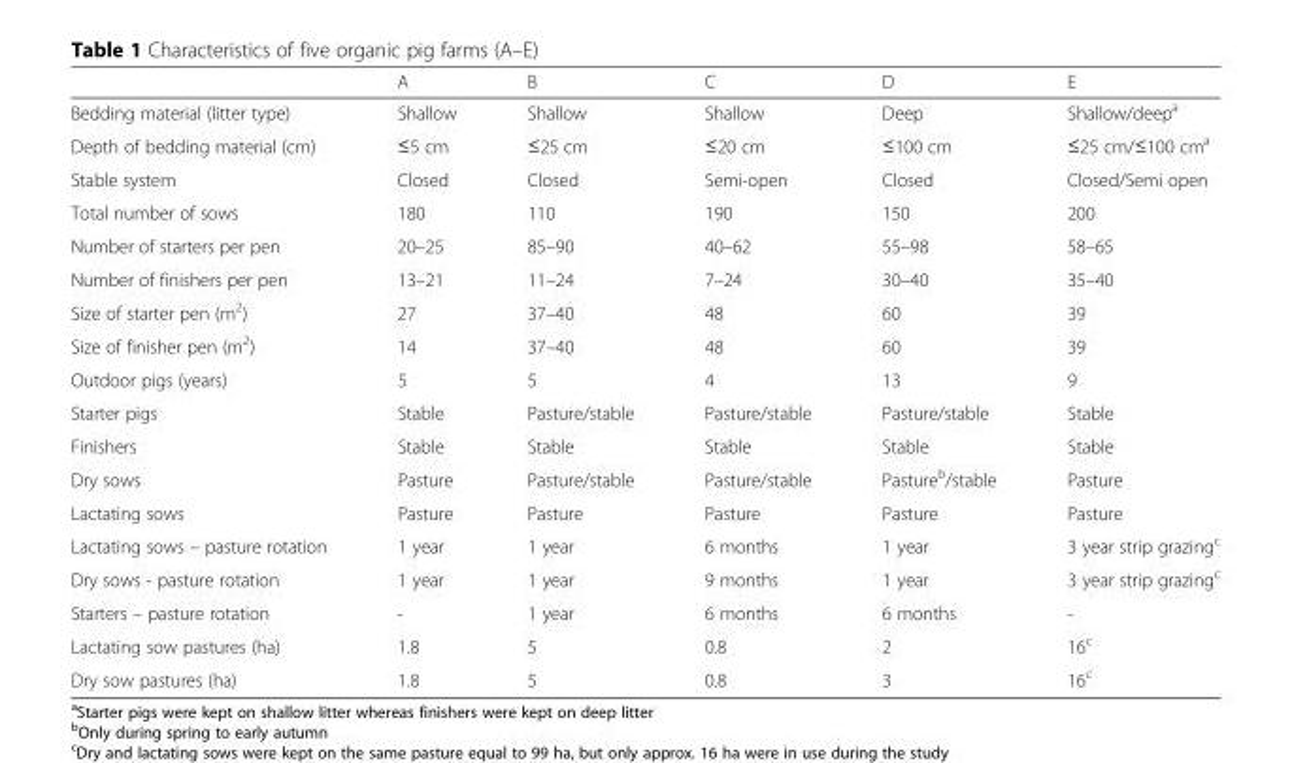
<table><thead><tr><td></td><td>A</td><td>B</td><td>C</td><td>D</td><td>E</td></tr></thead><tbody><tr><td>Bedding material (litter type)</td><td>Shallow</td><td>Shallow</td><td>Shallow</td><td>Deep</td><td>Shallow/deep<sup>a</sup></td></tr><tr><td>Depth of bedding material (cm)</td><td>≤5 cm</td><td>≤25 cm</td><td>≤20 cm</td><td>≤100 cm</td><td>≤25 cm/≤100 cm<sup>a</sup></td></tr><tr><td>Stable system</td><td>Closed</td><td>Closed</td><td>Semi-open</td><td>Closed</td><td>Closed/Semi open</td></tr><tr><td>Total number of sows</td><td>180</td><td>110</td><td>190</td><td>150</td><td>200</td></tr><tr><td>Number of starters per pen</td><td>20–25</td><td>85–90</td><td>40–62</td><td>55–98</td><td>58–65</td></tr><tr><td>Number of finishers per pen</td><td>13–21</td><td>11–24</td><td>7–24</td><td>30–40</td><td>35–40</td></tr><tr><td>Size of starter pen (m<sup>2</sup>)</td><td>27</td><td>37–40</td><td>48</td><td>60</td><td>39</td></tr><tr><td>Size of finisher pen (m<sup>2</sup>)</td><td>14</td><td>37–40</td><td>48</td><td>60</td><td>39</td></tr><tr><td>Outdoor pigs (years)</td><td>5</td><td>5</td><td>4</td><td>13</td><td>9</td></tr><tr><td>Starter pigs</td><td>Stable</td><td>Pasture/stable</td><td>Pasture/stable</td><td>Pasture/stable</td><td>Stable</td></tr><tr><td>Finishers</td><td>Stable</td><td>Stable</td><td>Stable</td><td>Stable</td><td>Stable</td></tr><tr><td>Dry sows</td><td>Pasture</td><td>Pasture/stable</td><td>Pasture/stable</td><td>Pasture<sup>b</sup>/stable</td><td>Pasture</td></tr><tr><td>Lactating sows</td><td>Pasture</td><td>Pasture</td><td>Pasture</td><td>Pasture</td><td>Pasture</td></tr><tr><td>Lactating sows – pasture rotation</td><td>1 year</td><td>1 year</td><td>6 months</td><td>1 year</td><td>3 year strip grazing<sup>c</sup></td></tr><tr><td>Dry sows - pasture rotation</td><td>1 year</td><td>1 year</td><td>9 months</td><td>1 year</td><td>3 year strip grazing<sup>c</sup></td></tr><tr><td>Starters – pasture rotation</td><td>-</td><td>1 year</td><td>6 months</td><td>6 months</td><td>-</td></tr><tr><td>Lactating sow pastures (ha)</td><td>1.8</td><td>5</td><td>0.8</td><td>2</td><td>16<sup>c</sup></td></tr><tr><td>Dry sow pastures (ha)</td><td>1.8</td><td>5</td><td>0.8</td><td>3</td><td>16<sup>c</sup></td></tr></tbody></table>